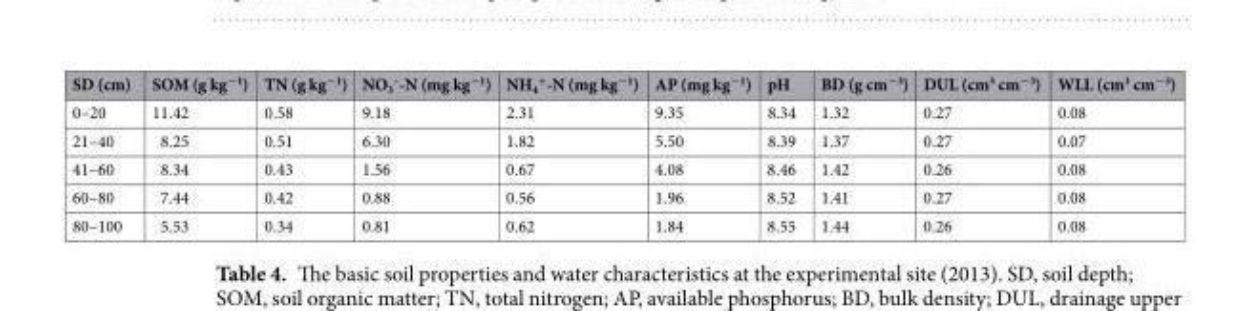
<table><thead><tr><td>SD (cm)</td><td>SOM (g kg<sup>−1</sup>)</td><td>TN (g kg<sup>−1</sup>)</td><td>NO<sub>3</sub> <sup>–</sup>-N (mg kg<sup>−1</sup>)</td><td>NH<sub>4</sub> <sup>+</sup>-N (mg kg<sup>−1</sup>)</td><td>AP (mg kg<sup>−1</sup>)</td><td>pH</td><td>BD (g cm<sup>−3</sup>)</td><td>DUL (cm<sup>3</sup> cm<sup>−3</sup>)</td><td>WLL (cm<sup>3</sup> cm<sup>−3</sup>)</td></tr></thead><tbody><tr><td>0–20</td><td>11.42</td><td>0.58</td><td>9.18</td><td>2.31</td><td>9.35</td><td>8.34</td><td>1.32</td><td>0.27</td><td>0.08</td></tr><tr><td>21–40</td><td>8.25</td><td>0.51</td><td>6.30</td><td>1.82</td><td>5.50</td><td>8.39</td><td>1.37</td><td>0.27</td><td>0.07</td></tr><tr><td>41–60</td><td>8.34</td><td>0.43</td><td>1.56</td><td>0.67</td><td>4.08</td><td>8.46</td><td>1.42</td><td>0.26</td><td>0.08</td></tr><tr><td>60–80</td><td>7.44</td><td>0.42</td><td>0.88</td><td>0.56</td><td>1.96</td><td>8.52</td><td>1.41</td><td>0.27</td><td>0.08</td></tr><tr><td>80–100</td><td>5.53</td><td>0.34</td><td>0.81</td><td>0.62</td><td>1.84</td><td>8.55</td><td>1.44</td><td>0.26</td><td>0.08</td></tr></tbody></table>